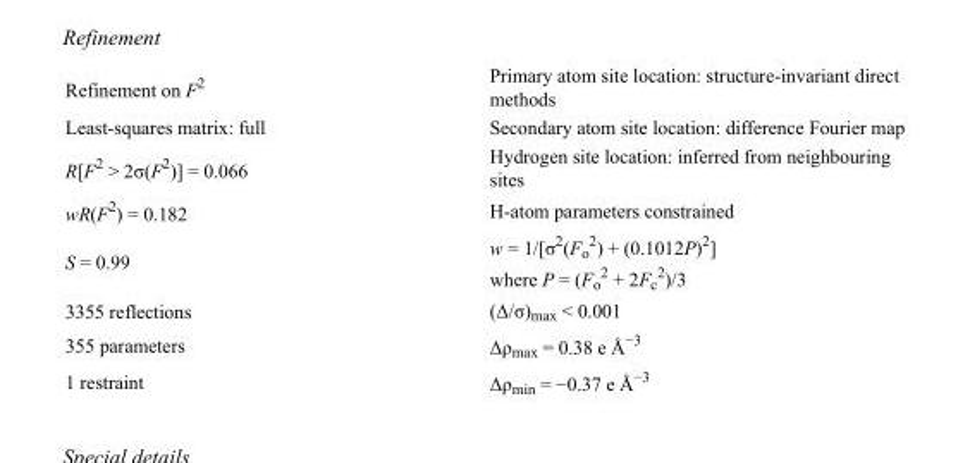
<table><tbody><tr><td>Refinement on F<sup>2</sup></td><td>Primary atom site location: structure-invariant direct methods</td></tr><tr><td>Least-squares matrix: full</td><td>Secondary atom site location: difference Fourier map</td></tr><tr><td>R[F<sup>2</sup> &gt; 2σ(F<sup>2</sup>)] = 0.066</td><td>Hydrogen site location: inferred from neighbouring sites</td></tr><tr><td>wR(F<sup>2</sup>) = 0.182</td><td>H-atom parameters constrained</td></tr><tr><td>S = 0.99</td><td>w = 1/[σ<sup>2</sup>(F<sub>o</sub> <sup>2</sup>) + (0.1012P)<sup>2</sup>] where P = (F<sub>o</sub> <sup>2</sup> + 2F<sub>c</sub> <sup>2</sup>)/3</td></tr><tr><td>3355 reflections</td><td>(Δ/σ)<sub>max</sub> &lt; 0.001</td></tr><tr><td>355 parameters</td><td>Δρ<sub>max</sub> = 0.38 e Å<sup>−3</sup></td></tr><tr><td>1 restraint</td><td>Δρ<sub>min</sub> = −0.37 e Å<sup>−3</sup></td></tr></tbody></table>